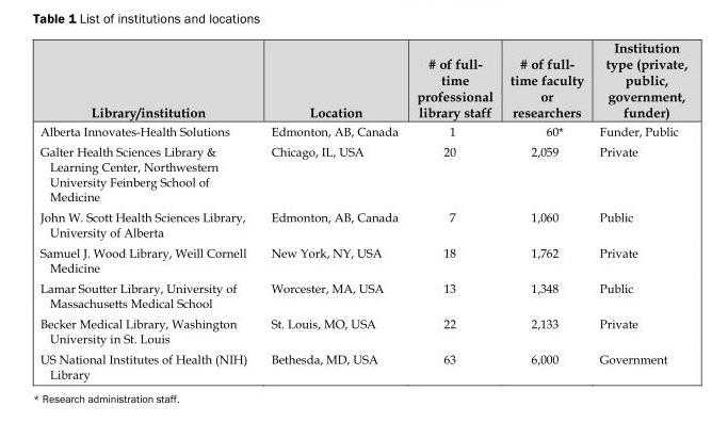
<table><thead><tr><td>Library/institution</td><td>Location</td><td># of full- time professional library staff</td><td># of full- time faculty or researchers</td><td>Institution type (private, public, government, funder)</td></tr></thead><tbody><tr><td>Alberta Innovates-Health Solutions</td><td>Edmonton, AB, Canada</td><td>1</td><td>60*</td><td>Funder, Public</td></tr><tr><td>Galter Health Sciences Library &amp; Learning Center, Northwestern University Feinberg School of Medicine</td><td>Chicago, IL, USA</td><td>20</td><td>2,059</td><td>Private</td></tr><tr><td>John W. Scott Health Sciences Library, University of Alberta</td><td>Edmonton, AB, Canada</td><td>7</td><td>1,060</td><td>Public</td></tr><tr><td>Samuel J. Wood Library, Weill Cornell Medicine</td><td>New York, NY, USA</td><td>18</td><td>1,762</td><td>Private</td></tr><tr><td>Lamar Soutter Library, University of Massachusetts Medical School</td><td>Worcester, MA, USA</td><td>13</td><td>1,348</td><td>Public</td></tr><tr><td>Becker Medical Library, Washington University in St. Louis</td><td>St. Louis, MO, USA</td><td>22</td><td>2,133</td><td>Private</td></tr><tr><td>US National Institutes of Health (NIH) Library</td><td>Bethesda, MD, USA</td><td>63</td><td>6,000</td><td>Government</td></tr></tbody></table>